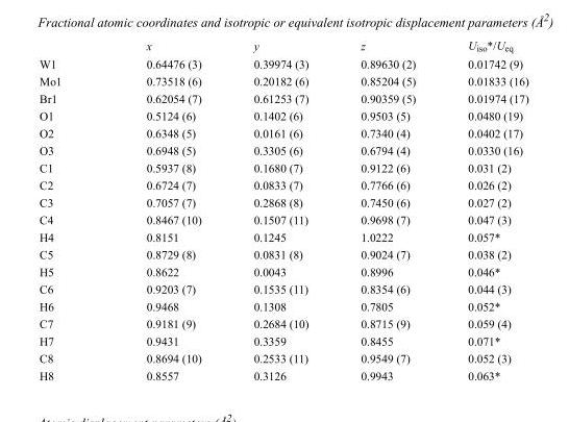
<table><thead><tr><td></td><td>x</td><td>y</td><td>z</td><td>U<sub>iso</sub>*/U<sub>eq</sub></td></tr></thead><tbody><tr><td>W1</td><td>0.64476 (3)</td><td>0.39974 (3)</td><td>0.89630 (2)</td><td>0.01742 (9)</td></tr><tr><td>Mo1</td><td>0.73518 (6)</td><td>0.20182 (6)</td><td>0.85204 (5)</td><td>0.01833 (16)</td></tr><tr><td>Br1</td><td>0.62054 (7)</td><td>0.61253 (7)</td><td>0.90359 (5)</td><td>0.01974 (17)</td></tr><tr><td>O1</td><td>0.5124 (6)</td><td>0.1402 (6)</td><td>0.9503 (5)</td><td>0.0480 (19)</td></tr><tr><td>O2</td><td>0.6348 (5)</td><td>0.0161 (6)</td><td>0.7340 (4)</td><td>0.0402 (17)</td></tr><tr><td>O3</td><td>0.6948 (5)</td><td>0.3305 (6)</td><td>0.6794 (4)</td><td>0.0330 (16)</td></tr><tr><td>C1</td><td>0.5937 (8)</td><td>0.1680 (7)</td><td>0.9122 (6)</td><td>0.031 (2)</td></tr><tr><td>C2</td><td>0.6724 (7)</td><td>0.0833 (7)</td><td>0.7766 (6)</td><td>0.026 (2)</td></tr><tr><td>C3</td><td>0.7057 (7)</td><td>0.2868 (8)</td><td>0.7450 (6)</td><td>0.027 (2)</td></tr><tr><td>C4</td><td>0.8467 (10)</td><td>0.1507 (11)</td><td>0.9698 (7)</td><td>0.047 (3)</td></tr><tr><td>H4</td><td>0.8151</td><td>0.1245</td><td>1.0222</td><td>0.057*</td></tr><tr><td>C5</td><td>0.8729 (8)</td><td>0.0831 (8)</td><td>0.9024 (7)</td><td>0.038 (2)</td></tr><tr><td>H5</td><td>0.8622</td><td>0.0043</td><td>0.8996</td><td>0.046*</td></tr><tr><td>C6</td><td>0.9203 (7)</td><td>0.1535 (11)</td><td>0.8354 (6)</td><td>0.044 (3)</td></tr><tr><td>H6</td><td>0.9468</td><td>0.1308</td><td>0.7805</td><td>0.052*</td></tr><tr><td>C7</td><td>0.9181 (9)</td><td>0.2684 (10)</td><td>0.8715 (9)</td><td>0.059 (4)</td></tr><tr><td>H7</td><td>0.9431</td><td>0.3359</td><td>0.8455</td><td>0.071*</td></tr><tr><td>C8</td><td>0.8694 (10)</td><td>0.2533 (11)</td><td>0.9549 (7)</td><td>0.052 (3)</td></tr><tr><td>H8</td><td>0.8557</td><td>0.3126</td><td>0.9943</td><td>0.063*</td></tr></tbody></table>